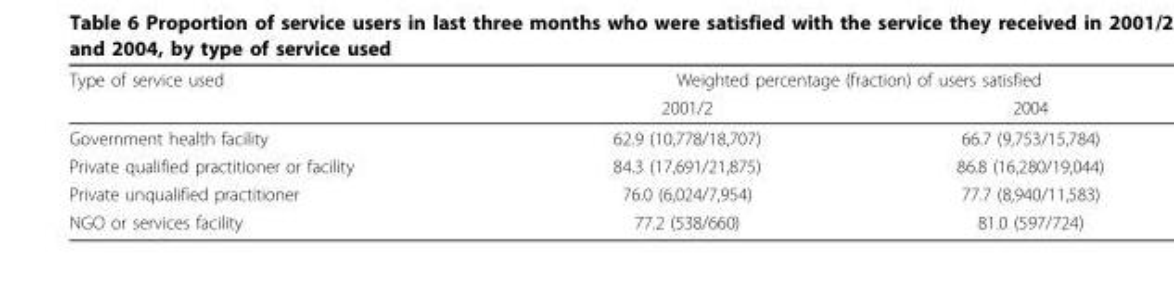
<table><thead><tr><td rowspan="2">Type of service used</td><td colspan="2">Weighted percentage (fraction) of users satisfied</td></tr><tr><td>2001/2</td><td>2004</td></tr></thead><tbody><tr><td>Government health facility</td><td>62.9 (10,778/18,707)</td><td>66.7 (9,753/15,784)</td></tr><tr><td>Private qualified practitioner or facility</td><td>84.3 (17,691/21,875)</td><td>86.8 (16,280/19,044)</td></tr><tr><td>Private unqualified practitioner</td><td>76.0 (6,024/7,954)</td><td>77.7 (8,940/11,583)</td></tr><tr><td>NGO or services facility</td><td>77.2 (538/660)</td><td>81.0 (597/724)</td></tr></tbody></table>